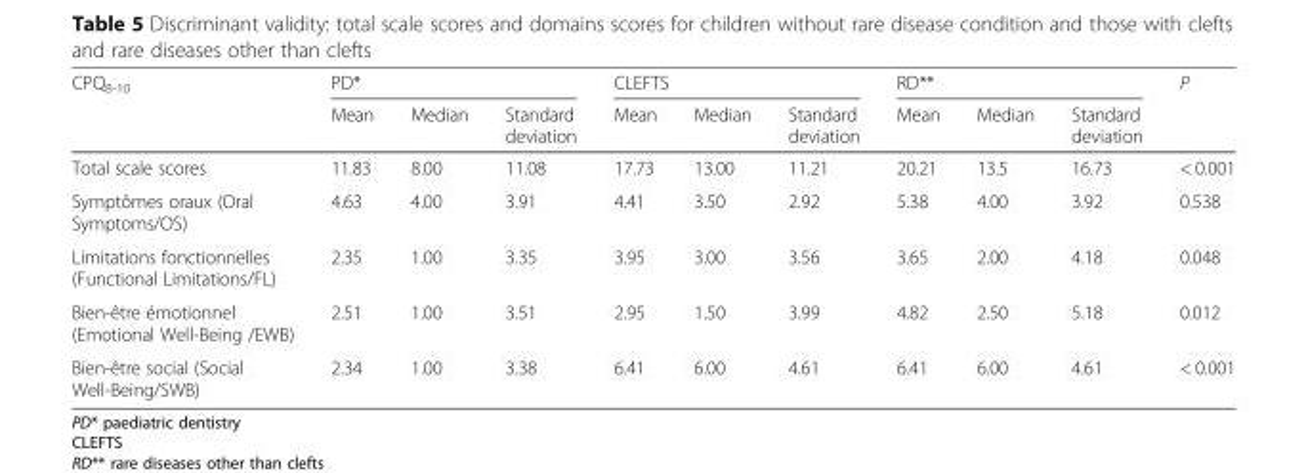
<table><thead><tr><td rowspan="2">CPQ<sub>8-10</sub></td><td colspan="3">PD*</td><td colspan="3">CLEFTS</td><td colspan="3">RD**</td><td rowspan="2">P</td></tr><tr><td>Mean</td><td>Median</td><td>Standard deviation</td><td>Mean</td><td>Median</td><td>Standard deviation</td><td>Mean</td><td>Median</td><td>Standard deviation</td></tr></thead><tbody><tr><td>Total scale scores</td><td>11.83</td><td>8.00</td><td>11.08</td><td>17.73</td><td>13.00</td><td>11.21</td><td>20.21</td><td>13.5</td><td>16.73</td><td>&lt; 0.001</td></tr><tr><td>Symptômes oraux (Oral Symptoms/OS)</td><td>4.63</td><td>4.00</td><td>3.91</td><td>4.41</td><td>3.50</td><td>2.92</td><td>5.38</td><td>4.00</td><td>3.92</td><td>0.538</td></tr><tr><td>Limitations fonctionnelles (Functional Limitations/FL)</td><td>2.35</td><td>1.00</td><td>3.35</td><td>3.95</td><td>3.00</td><td>3.56</td><td>3.65</td><td>2.00</td><td>4.18</td><td>0.048</td></tr><tr><td>Bien-être émotionnel (Emotional Well-Being /EWB)</td><td>2.51</td><td>1.00</td><td>3.51</td><td>2.95</td><td>1.50</td><td>3.99</td><td>4.82</td><td>2.50</td><td>5.18</td><td>0.012</td></tr><tr><td>Bien-être social (Social Well-Being/SWB)</td><td>2.34</td><td>1.00</td><td>3.38</td><td>6.41</td><td>6.00</td><td>4.61</td><td>6.41</td><td>6.00</td><td>4.61</td><td>&lt; 0.001</td></tr></tbody></table>